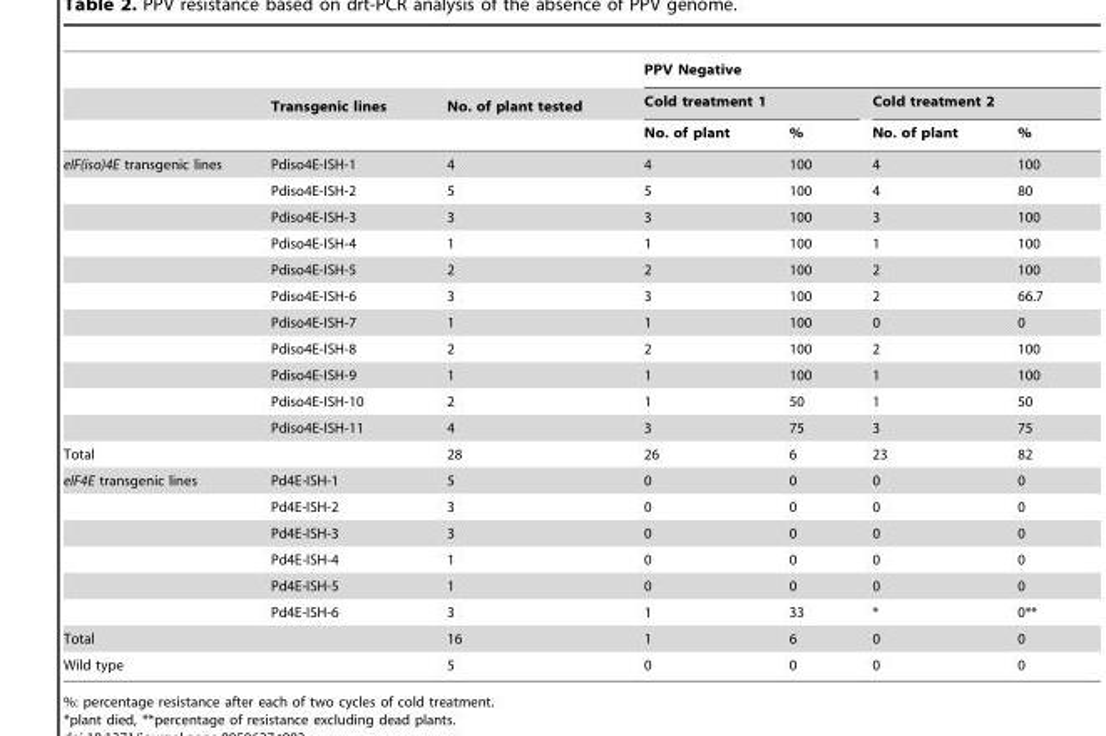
<table><thead><tr><td rowspan="3"></td><td rowspan="3">Transgenic lines</td><td rowspan="3">No. of plant tested</td><td colspan="4">PPV Negative</td></tr><tr><td colspan="2">Cold treatment 1</td><td colspan="2">Cold treatment 2</td></tr><tr><td>No. of plant</td><td>%</td><td>No. of plant</td><td>%</td></tr></thead><tbody><tr><td rowspan="11">eIF(iso)4E transgenic lines</td><td>Pdiso4E-ISH-1</td><td>4</td><td>4</td><td>100</td><td>4</td><td>100</td></tr><tr><td>Pdiso4E-ISH-2</td><td>5</td><td>5</td><td>100</td><td>4</td><td>80</td></tr><tr><td>Pdiso4E-ISH-3</td><td>3</td><td>3</td><td>100</td><td>3</td><td>100</td></tr><tr><td>Pdiso4E-ISH-4</td><td>1</td><td>1</td><td>100</td><td>1</td><td>100</td></tr><tr><td>Pdiso4E-ISH-5</td><td>2</td><td>2</td><td>100</td><td>2</td><td>100</td></tr><tr><td>Pdiso4E-ISH-6</td><td>3</td><td>3</td><td>100</td><td>2</td><td>66.7</td></tr><tr><td>Pdiso4E-ISH-7</td><td>1</td><td>1</td><td>100</td><td>0</td><td>0</td></tr><tr><td>Pdiso4E-ISH-8</td><td>2</td><td>2</td><td>100</td><td>2</td><td>100</td></tr><tr><td>Pdiso4E-ISH-9</td><td>1</td><td>1</td><td>100</td><td>1</td><td>100</td></tr><tr><td>Pdiso4E-ISH-10</td><td>2</td><td>1</td><td>50</td><td>1</td><td>50</td></tr><tr><td>Pdiso4E-ISH-11</td><td>4</td><td>3</td><td>75</td><td>3</td><td>75</td></tr><tr><td>Total</td><td></td><td>28</td><td>26</td><td>6</td><td>23</td><td>82</td></tr><tr><td rowspan="6">eIF4E transgenic lines</td><td>Pd4E-ISH-1</td><td>5</td><td>0</td><td>0</td><td>0</td><td>0</td></tr><tr><td>Pd4E-ISH-2</td><td>3</td><td>0</td><td>0</td><td>0</td><td>0</td></tr><tr><td>Pd4E-ISH-3</td><td>3</td><td>0</td><td>0</td><td>0</td><td>0</td></tr><tr><td>Pd4E-ISH-4</td><td>1</td><td>0</td><td>0</td><td>0</td><td>0</td></tr><tr><td>Pd4E-ISH-5</td><td>1</td><td>0</td><td>0</td><td>0</td><td>0</td></tr><tr><td>Pd4E-ISH-6</td><td>3</td><td>1</td><td>33</td><td>*</td><td>0**</td></tr><tr><td>Total</td><td></td><td>16</td><td>1</td><td>6</td><td>0</td><td>0</td></tr><tr><td>Wild type</td><td></td><td>5</td><td>0</td><td>0</td><td>0</td><td>0</td></tr></tbody></table>